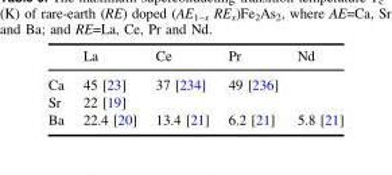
<table><thead><tr><td></td><td>La</td><td>Ce</td><td>Pr</td><td>Nd</td></tr></thead><tbody><tr><td>Ca</td><td>45 [23]</td><td>37 [234]</td><td>49 [236]</td><td></td></tr><tr><td>Sr</td><td>22 [19]</td><td></td><td></td><td></td></tr><tr><td>Ba</td><td>22.4 [20]</td><td>13.4 [21]</td><td>6.2 [21]</td><td>5.8 [21]</td></tr></tbody></table>